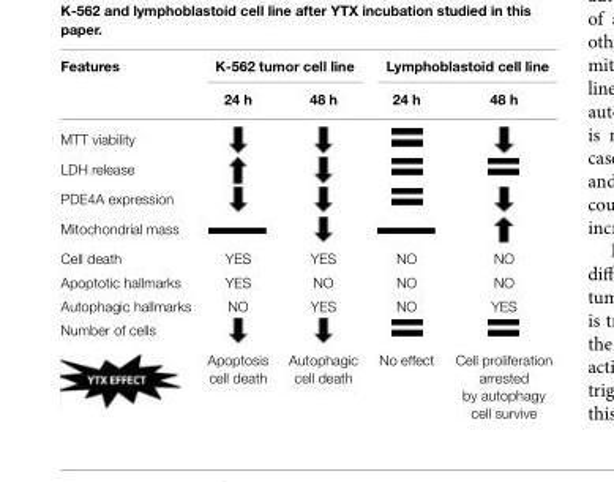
<table><thead><tr><td rowspan="2">Features</td><td colspan="2">K-562 tumor cell line</td><td colspan="2">Lymphoblastoid cell line</td></tr><tr><td>24 h</td><td>48 h</td><td>24 h</td><td>48 h</td></tr></thead><tbody><tr><td colspan="5">MTT viability</td></tr><tr><td colspan="5">LDH release</td></tr><tr><td colspan="5">PDE4A expression</td></tr><tr><td colspan="5">Mitochondrial mass</td></tr><tr><td>Cell death</td><td>YES</td><td>YES</td><td>NO</td><td>NO</td></tr><tr><td>Apoptotic hallmarks</td><td>YES</td><td>NO</td><td>NO</td><td>NO</td></tr><tr><td>Autophagic hallmarks</td><td>NO</td><td>YES</td><td>NO</td><td>YES</td></tr><tr><td colspan="5">Number of cells</td></tr><tr><td></td><td>Apoptosis cell death</td><td>Autophagic cell death</td><td>No effect</td><td>Cell proliferation arrested by autophagy cell survive</td></tr></tbody></table>